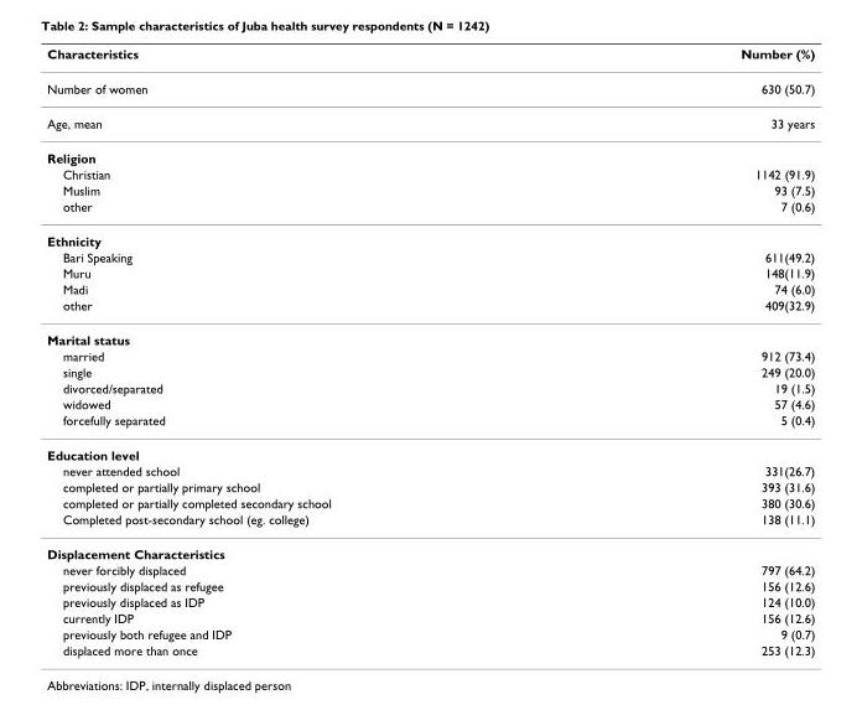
<table><thead><tr><td>Characteristics</td><td>Number (%)</td></tr></thead><tbody><tr><td>Number of women</td><td>630 (50.7)</td></tr><tr><td>Age, mean</td><td>33 years</td></tr><tr><td colspan="2">Religion</td></tr><tr><td>Christian</td><td>1142 (91.9)</td></tr><tr><td>Muslim</td><td>93 (7.5)</td></tr><tr><td>other</td><td>7 (0.6)</td></tr><tr><td colspan="2">Ethnicity</td></tr><tr><td>Bari Speaking</td><td>611(49.2)</td></tr><tr><td>Muru</td><td>148(11.9)</td></tr><tr><td>Madi</td><td>74 (6.0)</td></tr><tr><td>other</td><td>409(32.9)</td></tr><tr><td colspan="2">Marital status</td></tr><tr><td>married</td><td>912 (73.4)</td></tr><tr><td>single</td><td>249 (20.0)</td></tr><tr><td>divorced/separated</td><td>19 (1.5)</td></tr><tr><td>widowed</td><td>57 (4.6)</td></tr><tr><td>forcefully separated</td><td>5 (0.4)</td></tr><tr><td colspan="2">Education level</td></tr><tr><td>never attended school</td><td>331(26.7)</td></tr><tr><td>completed or partially primary school</td><td>393 (31.6)</td></tr><tr><td>completed or partially completed secondary school</td><td>380 (30.6)</td></tr><tr><td>Completed post-secondary school (eg. college)</td><td>138 (11.1)</td></tr><tr><td colspan="2">Displacement Characteristics</td></tr><tr><td>never forcibly displaced</td><td>797 (64.2)</td></tr><tr><td>previously displaced as refugee</td><td>156 (12.6)</td></tr><tr><td>previously displaced as IDP</td><td>124 (10.0)</td></tr><tr><td>currently IDP</td><td>156 (12.6)</td></tr><tr><td>previously both refugee and IDP</td><td>9 (0.7)</td></tr><tr><td>displaced more than once</td><td>253 (12.3)</td></tr></tbody></table>